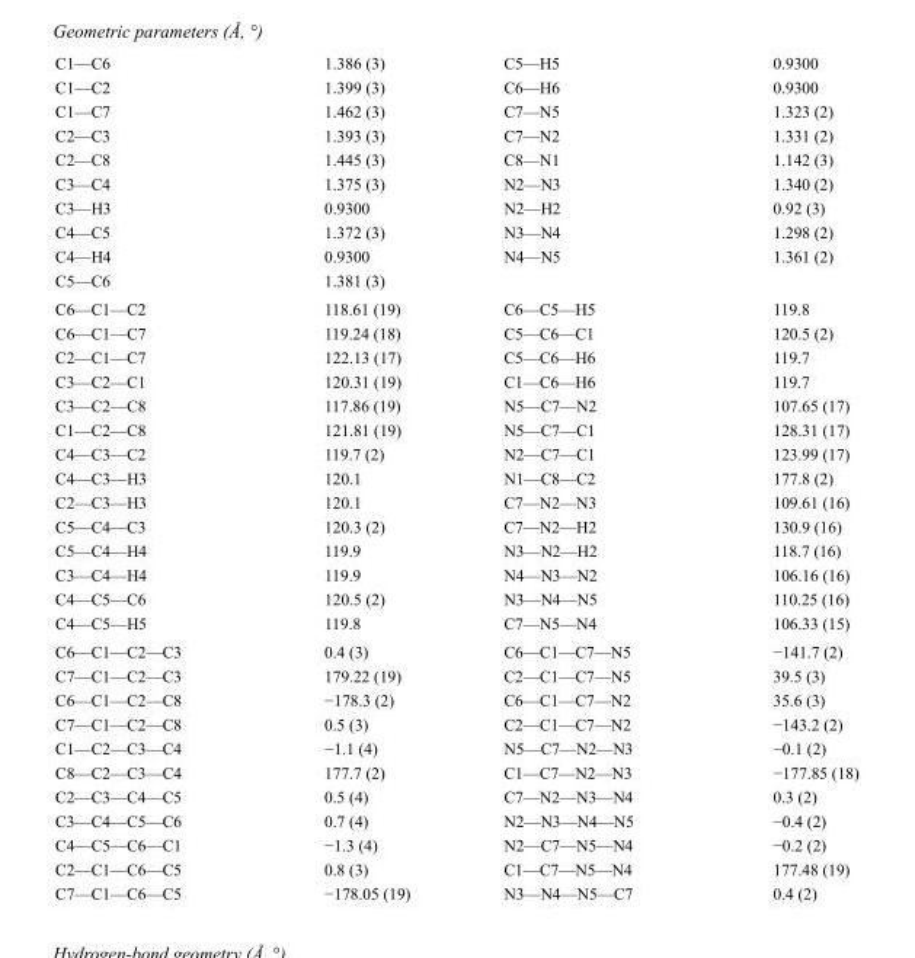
<table><tbody><tr><td>C1—C6</td><td>1.386 (3)</td><td>C5—H5</td><td>0.9300</td></tr><tr><td>C1—C2</td><td>1.399 (3)</td><td>C6—H6</td><td>0.9300</td></tr><tr><td>C1—C7</td><td>1.462 (3)</td><td>C7—N5</td><td>1.323 (2)</td></tr><tr><td>C2—C3</td><td>1.393 (3)</td><td>C7—N2</td><td>1.331 (2)</td></tr><tr><td>C2—C8</td><td>1.445 (3)</td><td>C8—N1</td><td>1.142 (3)</td></tr><tr><td>C3—C4</td><td>1.375 (3)</td><td>N2—N3</td><td>1.340 (2)</td></tr><tr><td>C3—H3</td><td>0.9300</td><td>N2—H2</td><td>0.92 (3)</td></tr><tr><td>C4—C5</td><td>1.372 (3)</td><td>N3—N4</td><td>1.298 (2)</td></tr><tr><td>C4—H4</td><td>0.9300</td><td>N4—N5</td><td>1.361 (2)</td></tr><tr><td>C5—C6</td><td>1.381 (3)</td><td></td><td></td></tr><tr><td>C6—C1—C2</td><td>118.61 (19)</td><td>C6—C5—H5</td><td>119.8</td></tr><tr><td>C6—C1—C7</td><td>119.24 (18)</td><td>C5—C6—C1</td><td>120.5 (2)</td></tr><tr><td>C2—C1—C7</td><td>122.13 (17)</td><td>C5—C6—H6</td><td>119.7</td></tr><tr><td>C3—C2—C1</td><td>120.31 (19)</td><td>C1—C6—H6</td><td>119.7</td></tr><tr><td>C3—C2—C8</td><td>117.86 (19)</td><td>N5—C7—N2</td><td>107.65 (17)</td></tr><tr><td>C1—C2—C8</td><td>121.81 (19)</td><td>N5—C7—C1</td><td>128.31 (17)</td></tr><tr><td>C4—C3—C2</td><td>119.7 (2)</td><td>N2—C7—C1</td><td>123.99 (17)</td></tr><tr><td>C4—C3—H3</td><td>120.1</td><td>N1—C8—C2</td><td>177.8 (2)</td></tr><tr><td>C2—C3—H3</td><td>120.1</td><td>C7—N2—N3</td><td>109.61 (16)</td></tr><tr><td>C5—C4—C3</td><td>120.3 (2)</td><td>C7—N2—H2</td><td>130.9 (16)</td></tr><tr><td>C5—C4—H4</td><td>119.9</td><td>N3—N2—H2</td><td>118.7 (16)</td></tr><tr><td>C3—C4—H4</td><td>119.9</td><td>N4—N3—N2</td><td>106.16 (16)</td></tr><tr><td>C4—C5—C6</td><td>120.5 (2)</td><td>N3—N4—N5</td><td>110.25 (16)</td></tr><tr><td>C4—C5—H5</td><td>119.8</td><td>C7—N5—N4</td><td>106.33 (15)</td></tr><tr><td>C6—C1—C2—C3</td><td>0.4 (3)</td><td>C6—C1—C7—N5</td><td>−141.7 (2)</td></tr><tr><td>C7—C1—C2—C3</td><td>179.22 (19)</td><td>C2—C1—C7—N5</td><td>39.5 (3)</td></tr><tr><td>C6—C1—C2—C8</td><td>−178.3 (2)</td><td>C6—C1—C7—N2</td><td>35.6 (3)</td></tr><tr><td>C7—C1—C2—C8</td><td>0.5 (3)</td><td>C2—C1—C7—N2</td><td>−143.2 (2)</td></tr><tr><td>C1—C2—C3—C4</td><td>−1.1 (4)</td><td>N5—C7—N2—N3</td><td>−0.1 (2)</td></tr><tr><td>C8—C2—C3—C4</td><td>177.7 (2)</td><td>C1—C7—N2—N3</td><td>−177.85 (18)</td></tr><tr><td>C2—C3—C4—C5</td><td>0.5 (4)</td><td>C7—N2—N3—N4</td><td>0.3 (2)</td></tr><tr><td>C3—C4—C5—C6</td><td>0.7 (4)</td><td>N2—N3—N4—N5</td><td>−0.4 (2)</td></tr><tr><td>C4—C5—C6—C1</td><td>−1.3 (4)</td><td>N2—C7—N5—N4</td><td>−0.2 (2)</td></tr><tr><td>C2—C1—C6—C5</td><td>0.8 (3)</td><td>C1—C7—N5—N4</td><td>177.48 (19)</td></tr><tr><td>C7—C1—C6—C5</td><td>−178.05 (19)</td><td>N3—N4—N5—C7</td><td>0.4 (2)</td></tr></tbody></table>